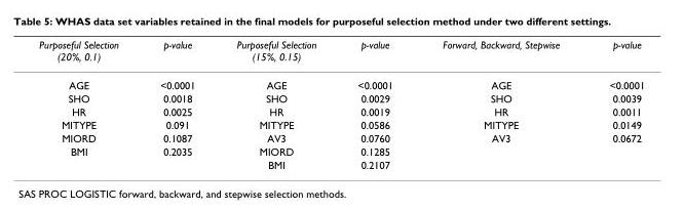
<table><thead><tr><td>Purposeful Selection (20%, 0.1)</td><td>p-value</td><td>Purposeful Selection (15%, 0.15)</td><td>p-value</td><td>Forward, Backward, Stepwise</td><td>p-value</td></tr></thead><tbody><tr><td>AGE</td><td>&lt;0.0001</td><td>AGE</td><td>&lt;0.0001</td><td>AGE</td><td>&lt;0.0001</td></tr><tr><td>SHO</td><td>0.0018</td><td>SHO</td><td>0.0029</td><td>SHO</td><td>0.0039</td></tr><tr><td>HR</td><td>0.0025</td><td>HR</td><td>0.0019</td><td>HR</td><td>0.0011</td></tr><tr><td>MITYPE</td><td>0.091</td><td>MITYPE</td><td>0.0586</td><td>MITYPE</td><td>0.0149</td></tr><tr><td>MIORD</td><td>0.1087</td><td>AV3</td><td>0.0760</td><td>AV3</td><td>0.0672</td></tr><tr><td rowspan="2">BMI</td><td>0.2035</td><td>MIORD</td><td>0.1285</td><td></td><td></td></tr><tr><td></td><td>BMI</td><td>0.2107</td><td></td><td></td></tr></tbody></table>